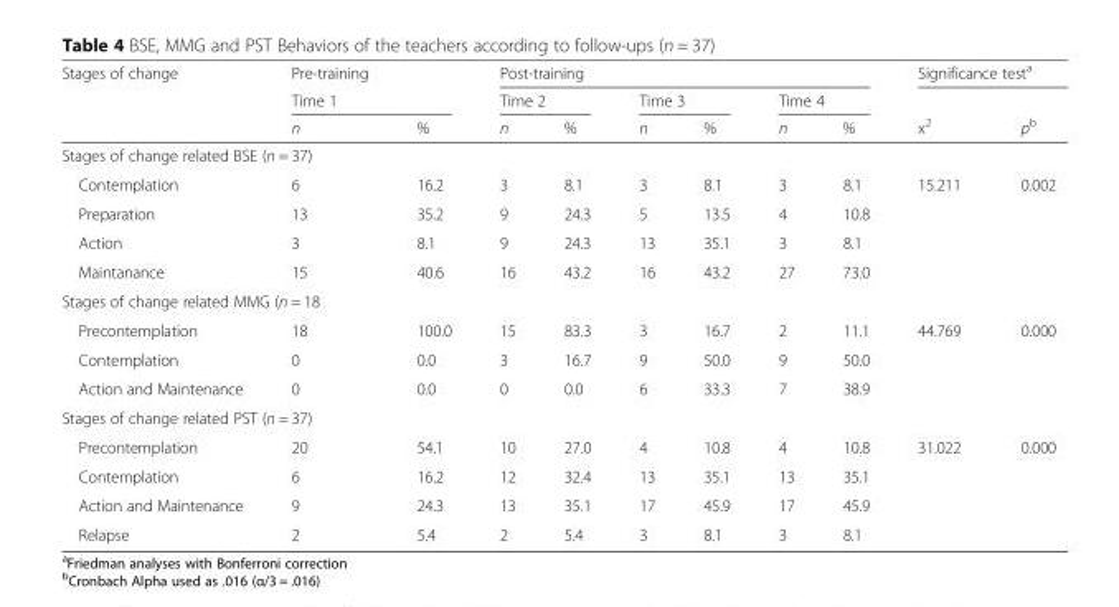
<table><thead><tr><td rowspan="3">Stages of change</td><td>Pre-training</td><td></td><td colspan="6">Post-training</td><td colspan="2">Significance test<sup>a</sup></td></tr><tr><td colspan="2">Time 1</td><td colspan="2">Time 2</td><td colspan="2">Time 3</td><td colspan="2">Time 4</td><td rowspan="2">x<sup>2</sup></td><td rowspan="2">p<sup>b</sup></td></tr><tr><td>n</td><td>%</td><td>n</td><td>%</td><td>n</td><td>%</td><td>n</td><td>%</td></tr></thead><tbody><tr><td colspan="11">Stages of change related BSE (n = 37)</td></tr><tr><td>Contemplation</td><td>6</td><td>16.2</td><td>3</td><td>8.1</td><td>3</td><td>8.1</td><td>3</td><td>8.1</td><td>15.211</td><td>0.002</td></tr><tr><td>Preparation</td><td>13</td><td>35.2</td><td>9</td><td>24.3</td><td>5</td><td>13.5</td><td>4</td><td>10.8</td><td></td><td></td></tr><tr><td>Action</td><td>3</td><td>8.1</td><td>9</td><td>24.3</td><td>13</td><td>35.1</td><td>3</td><td>8.1</td><td></td><td></td></tr><tr><td>Maintanance</td><td>15</td><td>40.6</td><td>16</td><td>43.2</td><td>16</td><td>43.2</td><td>27</td><td>73.0</td><td></td><td></td></tr><tr><td colspan="11">Stages of change related MMG (n = 18</td></tr><tr><td>Precontemplation</td><td>18</td><td>100.0</td><td>15</td><td>83.3</td><td>3</td><td>16.7</td><td>2</td><td>11.1</td><td>44.769</td><td>0.000</td></tr><tr><td>Contemplation</td><td>0</td><td>0.0</td><td>3</td><td>16.7</td><td>9</td><td>50.0</td><td>9</td><td>50.0</td><td></td><td></td></tr><tr><td>Action and Maintenance</td><td>0</td><td>0.0</td><td>0</td><td>0.0</td><td>6</td><td>33.3</td><td>7</td><td>38.9</td><td></td><td></td></tr><tr><td colspan="11">Stages of change related PST (n = 37)</td></tr><tr><td>Precontemplation</td><td>20</td><td>54.1</td><td>10</td><td>27.0</td><td>4</td><td>10.8</td><td>4</td><td>10.8</td><td>31.022</td><td>0.000</td></tr><tr><td>Contemplation</td><td>6</td><td>16.2</td><td>12</td><td>32.4</td><td>13</td><td>35.1</td><td>13</td><td>35.1</td><td></td><td></td></tr><tr><td>Action and Maintenance</td><td>9</td><td>24.3</td><td>13</td><td>35.1</td><td>17</td><td>45.9</td><td>17</td><td>45.9</td><td></td><td></td></tr><tr><td>Relapse</td><td>2</td><td>5.4</td><td>2</td><td>5.4</td><td>3</td><td>8.1</td><td>3</td><td>8.1</td><td></td><td></td></tr></tbody></table>